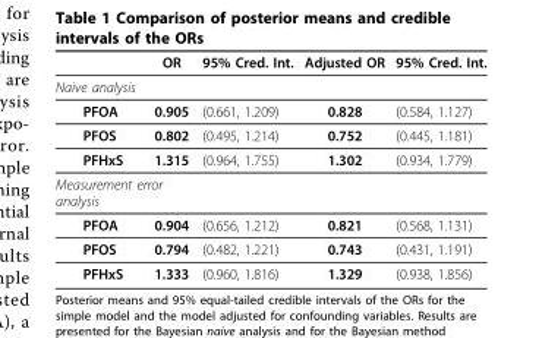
<table><thead><tr><td></td><td>OR</td><td>95% Cred. Int.</td><td>Adjusted OR</td><td>95% Cred. Int.</td></tr></thead><tbody><tr><td colspan="5">Naive analysis</td></tr><tr><td>PFOA</td><td>0.905</td><td>(0.661, 1.209)</td><td>0.828</td><td>(0.584, 1.127)</td></tr><tr><td>PFOS</td><td>0.802</td><td>(0.495, 1.214)</td><td>0.752</td><td>(0.445, 1.181)</td></tr><tr><td>PFHxS</td><td>1.315</td><td>(0.964, 1.755)</td><td>1.302</td><td>(0.934, 1.779)</td></tr><tr><td colspan="5">Measurement error analysis</td></tr><tr><td>PFOA</td><td>0.904</td><td>(0.656, 1.212)</td><td>0.821</td><td>(0.568, 1.131)</td></tr><tr><td>PFOS</td><td>0.794</td><td>(0.482, 1.221)</td><td>0.743</td><td>(0.431, 1.191)</td></tr><tr><td>PFHxS</td><td>1.333</td><td>(0.960, 1.816)</td><td>1.329</td><td>(0.938, 1.856)</td></tr></tbody></table>